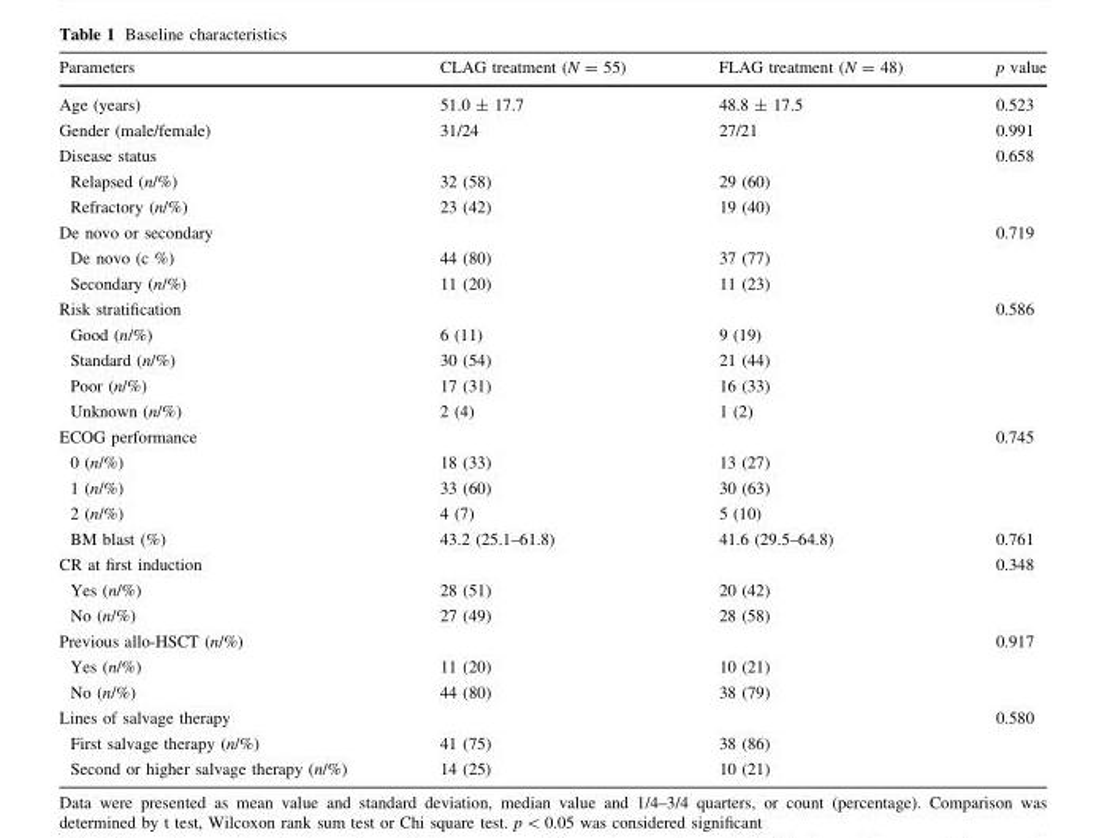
<table><thead><tr><td>Parameters</td><td>CLAG treatment (N = 55)</td><td>FLAG treatment (N = 48)</td><td>p value</td></tr></thead><tbody><tr><td>Age (years)</td><td>51.0 ± 17.7</td><td>48.8 ± 17.5</td><td>0.523</td></tr><tr><td>Gender (male/female)</td><td>31/24</td><td>27/21</td><td>0.991</td></tr><tr><td>Disease status</td><td></td><td></td><td>0.658</td></tr><tr><td>Relapsed (n/%)</td><td>32 (58)</td><td>29 (60)</td><td></td></tr><tr><td>Refractory (n/%)</td><td>23 (42)</td><td>19 (40)</td><td></td></tr><tr><td>De novo or secondary</td><td></td><td></td><td>0.719</td></tr><tr><td>De novo (c %)</td><td>44 (80)</td><td>37 (77)</td><td></td></tr><tr><td>Secondary (n/%)</td><td>11 (20)</td><td>11 (23)</td><td></td></tr><tr><td>Risk stratification</td><td></td><td></td><td>0.586</td></tr><tr><td>Good (n/%)</td><td>6 (11)</td><td>9 (19)</td><td></td></tr><tr><td>Standard (n/%)</td><td>30 (54)</td><td>21 (44)</td><td></td></tr><tr><td>Poor (n/%)</td><td>17 (31)</td><td>16 (33)</td><td></td></tr><tr><td>Unknown (n/%)</td><td>2 (4)</td><td>1 (2)</td><td></td></tr><tr><td>ECOG performance</td><td></td><td></td><td>0.745</td></tr><tr><td>0 (n/%)</td><td>18 (33)</td><td>13 (27)</td><td></td></tr><tr><td>1 (n/%)</td><td>33 (60)</td><td>30 (63)</td><td></td></tr><tr><td>2 (n/%)</td><td>4 (7)</td><td>5 (10)</td><td></td></tr><tr><td>BM blast (%)</td><td>43.2 (25.1–61.8)</td><td>41.6 (29.5–64.8)</td><td>0.761</td></tr><tr><td>CR at first induction</td><td></td><td></td><td>0.348</td></tr><tr><td>Yes (n/%)</td><td>28 (51)</td><td>20 (42)</td><td></td></tr><tr><td>No (n/%)</td><td>27 (49)</td><td>28 (58)</td><td></td></tr><tr><td>Previous allo-HSCT (n/%)</td><td></td><td></td><td>0.917</td></tr><tr><td>Yes (n/%)</td><td>11 (20)</td><td>10 (21)</td><td></td></tr><tr><td>No (n/%)</td><td>44 (80)</td><td>38 (79)</td><td></td></tr><tr><td>Lines of salvage therapy</td><td></td><td></td><td>0.580</td></tr><tr><td>First salvage therapy (n/%)</td><td>41 (75)</td><td>38 (86)</td><td></td></tr><tr><td>Second or higher salvage therapy (n/%)</td><td>14 (25)</td><td>10 (21)</td><td></td></tr></tbody></table>